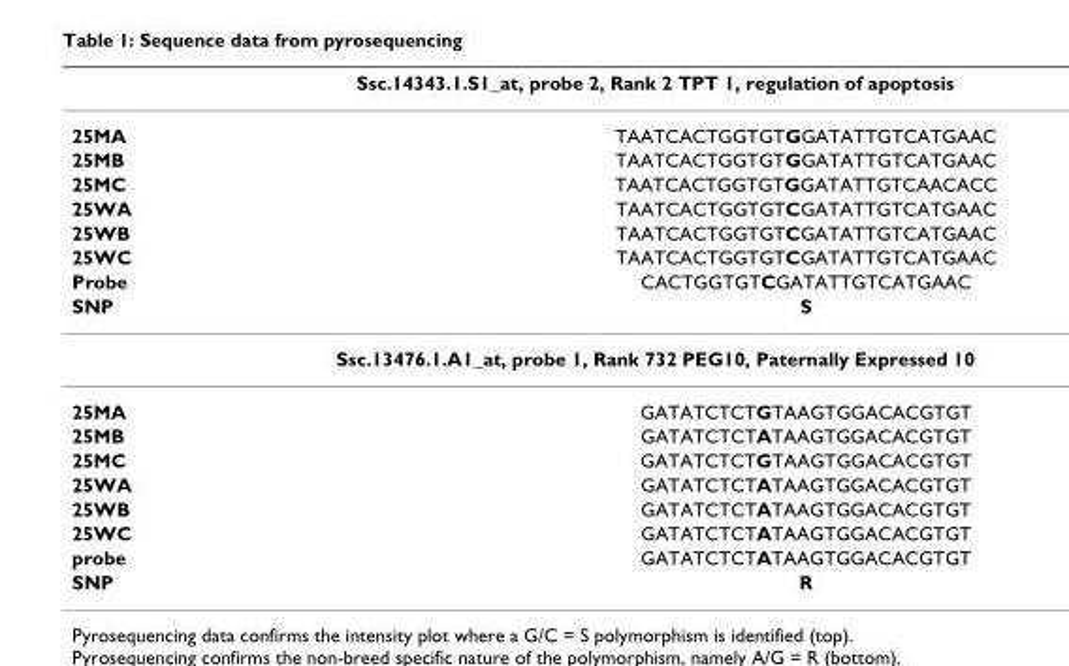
<table><thead><tr><td colspan="2">Ssc.14343.1.S1_at, probe 2, Rank 2 TPT 1, regulation of apoptosis</td></tr><tr><td>25MA</td><td>TAATCACTGGTGTGGATATTGTCATGAAC</td></tr></thead><tbody><tr><td>25MB</td><td>TAATCACTGGTGTGGATATTGTCATGAAC</td></tr><tr><td>25MC</td><td>TAATCACTGGTGTGGATATTGTCAACACC</td></tr><tr><td>25WA</td><td>TAATCACTGGTGTCGATATTGTCATGAAC</td></tr><tr><td>25WB</td><td>TAATCACTGGTGTCGATATTGTCATGAAC</td></tr><tr><td>25WC</td><td>TAATCACTGGTGTCGATATTGTCATGAAC</td></tr><tr><td>Probe</td><td>CACTGGTGTCGATATTGTCATGAAC</td></tr><tr><td>SNP</td><td>S</td></tr><tr><td colspan="2">Ssc.13476.1.A1_at, probe 1, Rank 732 PEG10, Paternally Expressed 10</td></tr><tr><td>25MA</td><td>GATATCTCTGTAAGTGGACACGTGT</td></tr><tr><td>25MB</td><td>GATATCTCTATAAGTGGACACGTGT</td></tr><tr><td>25MC</td><td>GATATCTCTGTAAGTGGACACGTGT</td></tr><tr><td>25WA</td><td>GATATCTCTATAAGTGGACACGTGT</td></tr><tr><td>25WB</td><td>GATATCTCTATAAGTGGACACGTGT</td></tr><tr><td>25WC</td><td>GATATCTCTATAAGTGGACACGTGT</td></tr><tr><td>probe</td><td>GATATCTCTATAAGTGGACACGTGT</td></tr><tr><td>SNP</td><td>R</td></tr></tbody></table>